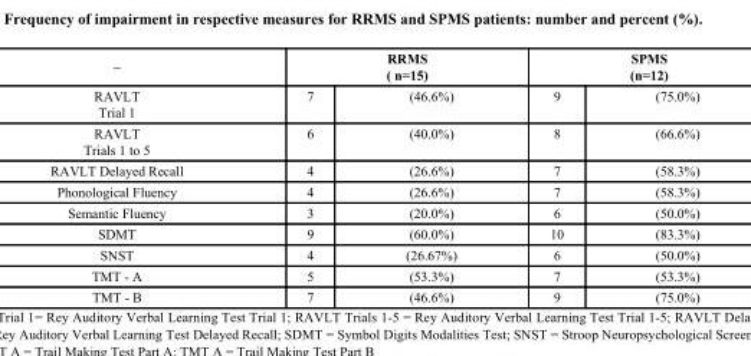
<table><thead><tr><td rowspan="2">– RAVLT Trial 1</td><td colspan="2">RRMS ( n=15)</td><td colspan="2">SPMS (n=12)</td></tr><tr><td>7</td><td>(46.6%)</td><td>9</td><td>(75.0%)</td></tr></thead><tbody><tr><td>RAVLT Trials 1 to 5</td><td>6</td><td>(40.0%)</td><td>8</td><td>(66.6%)</td></tr><tr><td>RAVLT Delayed Recall</td><td>4</td><td>(26.6%)</td><td>7</td><td>(58.3%)</td></tr><tr><td>Phonological Fluency</td><td>4</td><td>(26.6%)</td><td>7</td><td>(58.3%)</td></tr><tr><td>Semantic Fluency</td><td>3</td><td>(20.0%)</td><td>6</td><td>(50.0%)</td></tr><tr><td>SDMT</td><td>9</td><td>(60.0%)</td><td>10</td><td>(83.3%)</td></tr><tr><td>SNST</td><td>4</td><td>(26.67%)</td><td>6</td><td>(50.0%)</td></tr><tr><td>TMT - A</td><td>5</td><td>(53.3%)</td><td>7</td><td>(53.3%)</td></tr><tr><td>TMT - B</td><td>7</td><td>(46.6%)</td><td>9</td><td>(75.0%)</td></tr></tbody></table>